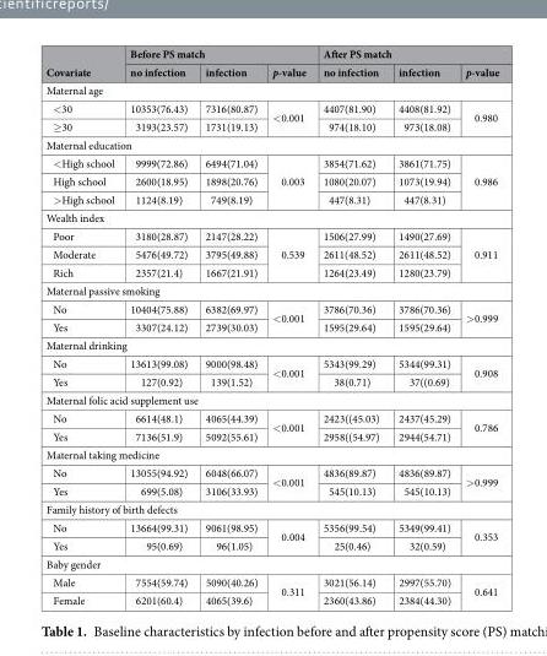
<table><thead><tr><td rowspan="2">Covariate</td><td colspan="3">Before PS match</td><td colspan="3">After PS match</td></tr><tr><td>no infection</td><td>infection</td><td>p-value</td><td>no infection</td><td>infection</td><td>p-value</td></tr></thead><tbody><tr><td colspan="7">Maternal age</td></tr><tr><td>&lt;30</td><td>10353(76.43)</td><td>7316(80.87)</td><td rowspan="2">&lt;0.001</td><td>4407(81.90)</td><td>4408(81.92)</td><td rowspan="2">0.980</td></tr><tr><td>≥30</td><td>3193(23.57)</td><td>1731(19.13)</td><td>974(18.10)</td><td>973(18.08)</td></tr><tr><td colspan="7">Maternal education</td></tr><tr><td>&lt;High school</td><td>9999(72.86)</td><td>6494(71.04)</td><td rowspan="3">0.003</td><td>3854(71.62)</td><td>3861(71.75)</td><td rowspan="3">0.986</td></tr><tr><td>High school</td><td>2600(18.95)</td><td>1898(20.76)</td><td>1080(20.07)</td><td>1073(19.94)</td></tr><tr><td>&gt;High school</td><td>1124(8.19)</td><td>749(8.19)</td><td>447(8.31)</td><td>447(8.31)</td></tr><tr><td colspan="7">Wealth index</td></tr><tr><td>Poor</td><td>3180(28.87)</td><td>2147(28.22)</td><td rowspan="3">0.539</td><td>1506(27.99)</td><td>1490(27.69)</td><td rowspan="3">0.911</td></tr><tr><td>Moderate</td><td>5476(49.72)</td><td>3795(49.88)</td><td>2611(48.52)</td><td>2611(48.52)</td></tr><tr><td>Rich</td><td>2357(21.4)</td><td>1667(21.91)</td><td>1264(23.49)</td><td>1280(23.79)</td></tr><tr><td colspan="7">Maternal passive smoking</td></tr><tr><td>No</td><td>10404(75.88)</td><td>6382(69.97)</td><td rowspan="2">&lt;0.001</td><td>3786(70.36)</td><td>3786(70.36)</td><td rowspan="2">&gt;0.999</td></tr><tr><td>Yes</td><td>3307(24.12)</td><td>2739(30.03)</td><td>1595(29.64)</td><td>1595(29.64)</td></tr><tr><td colspan="7">Maternal drinking</td></tr><tr><td>No</td><td>13613(99.08)</td><td>9000(98.48)</td><td rowspan="2">&lt;0.001</td><td>5343(99.29)</td><td>5344(99.31)</td><td rowspan="2">0.908</td></tr><tr><td>Yes</td><td>127(0.92)</td><td>139(1.52)</td><td>38(0.71)</td><td>37((0.69)</td></tr><tr><td colspan="7">Maternal folic acid supplement use</td></tr><tr><td>No</td><td>6614(48.1)</td><td>4065(44.39)</td><td rowspan="2">&lt;0.001</td><td>2423((45.03)</td><td>2437(45.29)</td><td rowspan="2">0.786</td></tr><tr><td>Yes</td><td>7136(51.9)</td><td>5092(55.61)</td><td>2958((54.97)</td><td>2944(54.71)</td></tr><tr><td colspan="7">Maternal taking medicine</td></tr><tr><td>No</td><td>13055(94.92)</td><td>6048(66.07)</td><td rowspan="2">&lt;0.001</td><td>4836(89.87)</td><td>4836(89.87)</td><td rowspan="2">&gt;0.999</td></tr><tr><td>Yes</td><td>699(5.08)</td><td>3106(33.93)</td><td>545(10.13)</td><td>545(10.13)</td></tr><tr><td colspan="7">Family history of birth defects</td></tr><tr><td>No</td><td>13664(99.31)</td><td>9061(98.95)</td><td rowspan="2">0.004</td><td>5356(99.54)</td><td>5349(99.41)</td><td rowspan="2">0.353</td></tr><tr><td>Yes</td><td>95(0.69)</td><td>96(1.05)</td><td>25(0.46)</td><td>32(0.59)</td></tr><tr><td colspan="7">Baby gender</td></tr><tr><td>Male</td><td>7554(59.74)</td><td>5090(40.26)</td><td rowspan="2">0.311</td><td>3021(56.14)</td><td>2997(55.70)</td><td rowspan="2">0.641</td></tr><tr><td>Female</td><td>6201(60.4)</td><td>4065(39.6)</td><td>2360(43.86)</td><td>2384(44.30)</td></tr></tbody></table>